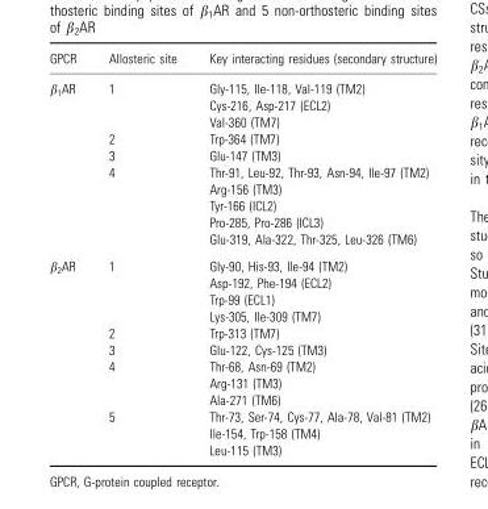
<table><thead><tr><td>GPCR</td><td>Allosteric site</td><td>Key interacting residues (secondary structure)</td></tr></thead><tbody><tr><td rowspan="10">β<sub>1</sub>AR</td><td rowspan="3">1</td><td>Gly-115, Ile-118, Val-119 (TM2)</td></tr><tr><td>Cys-216, Asp-217 (ECL2)</td></tr><tr><td>Val-360 (TM7)</td></tr><tr><td>2</td><td>Trp-364 (TM7)</td></tr><tr><td>3</td><td>Glu-147 (TM3)</td></tr><tr><td rowspan="5">4</td><td>Thr-91, Leu-92, Thr-93, Asn-94, Ile-97 (TM2)</td></tr><tr><td>Arg-156 (TM3)</td></tr><tr><td>Tyr-166 (ICL2)</td></tr><tr><td>Pro-285, Pro-286 (ICL3)</td></tr><tr><td>Glu-319, Ala-322, Thr-325, Leu-326 (TM6)</td></tr><tr><td rowspan="12">β<sub>2</sub>AR</td><td rowspan="4">1</td><td>Gly-90, His-93, Ile-94 (TM2)</td></tr><tr><td>Asp-192, Phe-194 (ECL2)</td></tr><tr><td>Trp-99 (ECL1)</td></tr><tr><td>Lys-305, Ile-309 (TM7)</td></tr><tr><td>2</td><td>Trp-313 (TM7)</td></tr><tr><td>3</td><td>Glu-122, Cys-125 (TM3)</td></tr><tr><td rowspan="3">4</td><td>Thr-68, Asn-69 (TM2)</td></tr><tr><td>Arg-131 (TM3)</td></tr><tr><td>Ala-271 (TM6)</td></tr><tr><td rowspan="3">5</td><td>Thr-73, Ser-74, Cys-77, Ala-78, Val-81 (TM2)</td></tr><tr><td>Ile-154, Trp-158 (TM4)</td></tr><tr><td>Leu-115 (TM3)</td></tr></tbody></table>